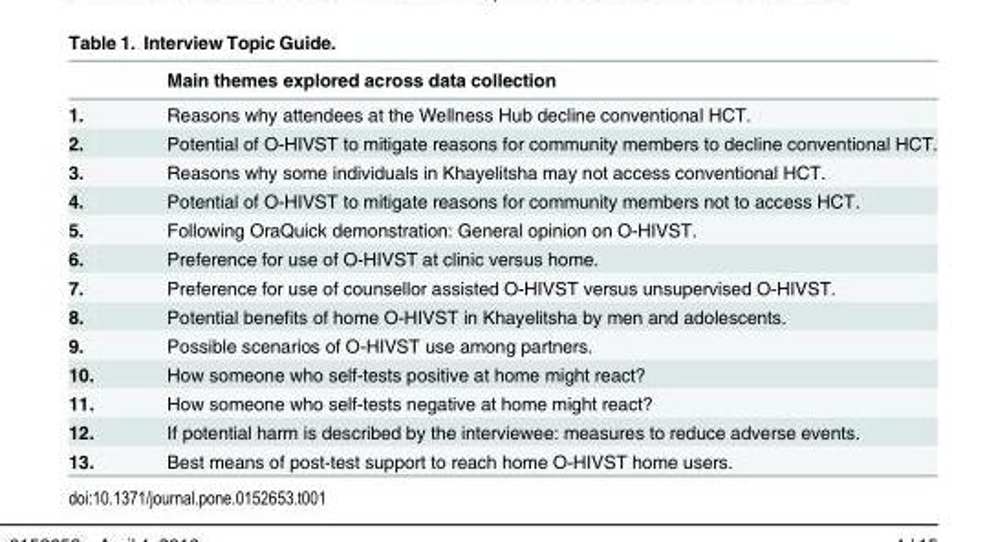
<table><thead><tr><td></td><td>Main themes explored across data collection</td></tr></thead><tbody><tr><td>1.</td><td>Reasons why attendees at the Wellness Hub decline conventional HCT.</td></tr><tr><td>2.</td><td>Potential of O-HIVST to mitigate reasons for community members to decline conventional HCT.</td></tr><tr><td>3.</td><td>Reasons why some individuals in Khayelitsha may not access conventional HCT.</td></tr><tr><td>4.</td><td>Potential of O-HIVST to mitigate reasons for community members not to access HCT.</td></tr><tr><td>5.</td><td>Following OraQuick demonstration: General opinion on O-HIVST.</td></tr><tr><td>6.</td><td>Preference for use of O-HIVST at clinic versus home.</td></tr><tr><td>7.</td><td>Preference for use of counsellor assisted O-HIVST versus unsupervised O-HIVST.</td></tr><tr><td>8.</td><td>Potential benefits of home O-HIVST in Khayelitsha by men and adolescents.</td></tr><tr><td>9.</td><td>Possible scenarios of O-HIVST use among partners.</td></tr><tr><td>10.</td><td>How someone who self-tests positive at home might react?</td></tr><tr><td>11.</td><td>How someone who self-tests negative at home might react?</td></tr><tr><td>12.</td><td>If potential harm is described by the interviewee: measures to reduce adverse events.</td></tr><tr><td>13.</td><td>Best means of post-test support to reach home O-HIVST home users.</td></tr></tbody></table>